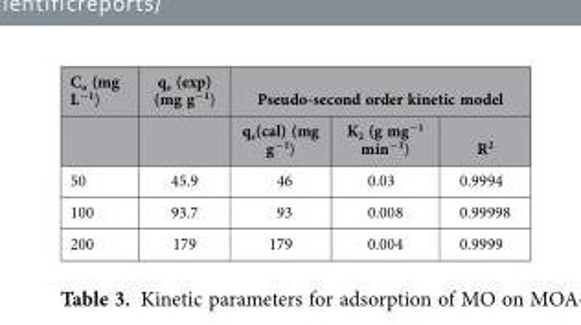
<table><thead><tr><td rowspan="2">C<sub>o</sub> (mg L<sup>−1</sup>)</td><td rowspan="2">q<sub>e</sub> (exp) (mg g<sup>−1</sup>)</td><td colspan="3">Pseudo-second order kinetic model</td></tr><tr><td>q<sub>e</sub>(cal) (mg g<sup>−1</sup>)</td><td>K<sub>2</sub> (g mg<sup>−1</sup> min<sup>−1</sup>)</td><td>R<sup>2</sup></td></tr></thead><tbody><tr><td>50</td><td>45.9</td><td>46</td><td>0.03</td><td>0.9994</td></tr><tr><td>100</td><td>93.7</td><td>93</td><td>0.008</td><td>0.99998</td></tr><tr><td>200</td><td>179</td><td>179</td><td>0.004</td><td>0.9999</td></tr></tbody></table>